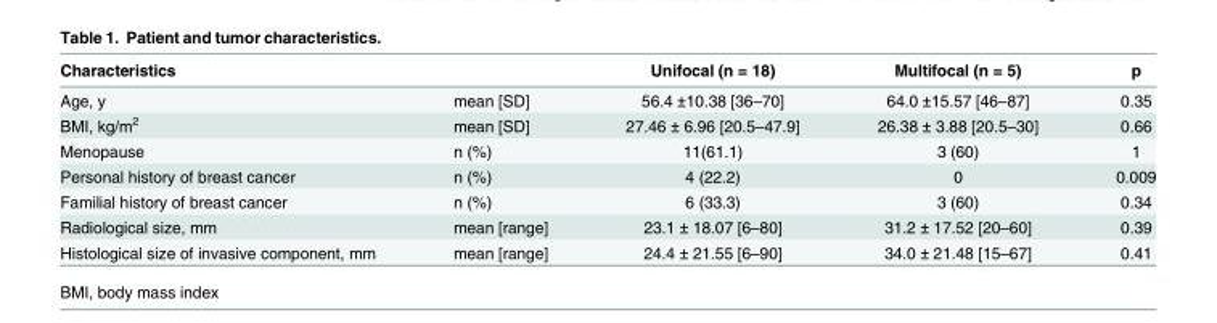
<table><thead><tr><td>Characteristics</td><td></td><td>Unifocal (n = 18)</td><td>Multifocal (n = 5)</td><td>p</td></tr></thead><tbody><tr><td>Age, y</td><td>mean [SD]</td><td>56.4 ±10.38 [36–70]</td><td>64.0 ±15.57 [46–87]</td><td>0.35</td></tr><tr><td>BMI, kg/m<sup>2</sup></td><td>mean [SD]</td><td>27.46 ± 6.96 [20.5–47.9]</td><td>26.38 ± 3.88 [20.5–30]</td><td>0.66</td></tr><tr><td>Menopause</td><td>n (%)</td><td>11(61.1)</td><td>3 (60)</td><td>1</td></tr><tr><td>Personal history of breast cancer</td><td>n (%)</td><td>4 (22.2)</td><td>0</td><td>0.009</td></tr><tr><td>Familial history of breast cancer</td><td>n (%)</td><td>6 (33.3)</td><td>3 (60)</td><td>0.34</td></tr><tr><td>Radiological size, mm</td><td>mean [range]</td><td>23.1 ± 18.07 [6–80]</td><td>31.2 ± 17.52 [20–60]</td><td>0.39</td></tr><tr><td>Histological size of invasive component, mm</td><td>mean [range]</td><td>24.4 ± 21.55 [6–90]</td><td>34.0 ± 21.48 [15–67]</td><td>0.41</td></tr></tbody></table>